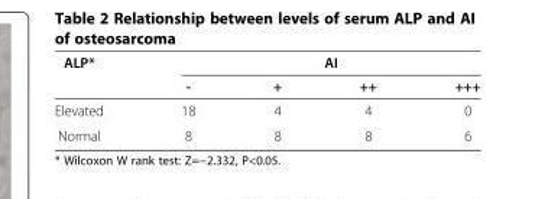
<table><thead><tr><td rowspan="2">ALP*</td><td colspan="4">AI</td></tr><tr><td>-</td><td>+</td><td>++</td><td>+++</td></tr></thead><tbody><tr><td>Elevated</td><td>18</td><td>4</td><td>4</td><td>0</td></tr><tr><td>Normal</td><td>8</td><td>8</td><td>8</td><td>6</td></tr></tbody></table>